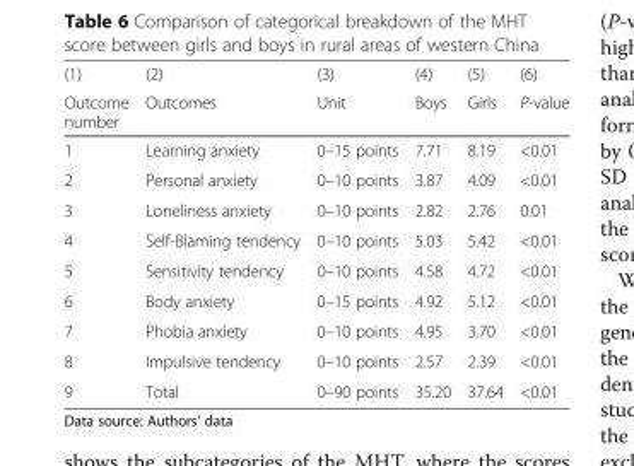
<table><thead><tr><td rowspan="2">(1) Outcome number</td><td rowspan="2">(2) Outcomes</td><td rowspan="2">(3) Unit</td><td rowspan="2">(4) Boys</td><td rowspan="2">(5) Girls</td><td rowspan="2">(6) P-value</td></tr><tr></tr></thead><tbody><tr><td>1</td><td>Learning anxiety</td><td>0–15 points</td><td>7.71</td><td>8.19</td><td>&lt;0.01</td></tr><tr><td>2</td><td>Personal anxiety</td><td>0–10 points</td><td>3.87</td><td>4.09</td><td>&lt;0.01</td></tr><tr><td>3</td><td>Loneliness anxiety</td><td>0–10 points</td><td>2.82</td><td>2.76</td><td>0.01</td></tr><tr><td>4</td><td>Self-Blaming tendency</td><td>0–10 points</td><td>5.03</td><td>5.42</td><td>&lt;0.01</td></tr><tr><td>5</td><td>Sensitivity tendency</td><td>0–10 points</td><td>4.58</td><td>4.72</td><td>&lt;0.01</td></tr><tr><td>6</td><td>Body anxiety</td><td>0–15 points</td><td>4.92</td><td>5.12</td><td>&lt;0.01</td></tr><tr><td>7</td><td>Phobia anxiety</td><td>0–10 points</td><td>4.95</td><td>3.70</td><td>&lt;0.01</td></tr><tr><td>8</td><td>Impulsive tendency</td><td>0–10 points</td><td>2.57</td><td>2.39</td><td>&lt;0.01</td></tr><tr><td>9</td><td>Total</td><td>0–90 points</td><td>35.20</td><td>37.64</td><td>&lt;0.01</td></tr></tbody></table>